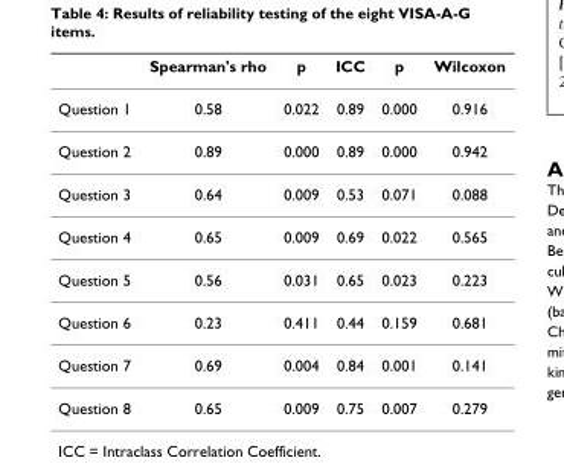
<table><thead><tr><td></td><td>Spearman&#x27;s rho</td><td>p</td><td>ICC</td><td>p</td><td>Wilcoxon</td></tr></thead><tbody><tr><td>Question 1</td><td>0.58</td><td>0.022</td><td>0.89</td><td>0.000</td><td>0.916</td></tr><tr><td>Question 2</td><td>0.89</td><td>0.000</td><td>0.89</td><td>0.000</td><td>0.942</td></tr><tr><td>Question 3</td><td>0.64</td><td>0.009</td><td>0.53</td><td>0.071</td><td>0.088</td></tr><tr><td>Question 4</td><td>0.65</td><td>0.009</td><td>0.69</td><td>0.022</td><td>0.565</td></tr><tr><td>Question 5</td><td>0.56</td><td>0.031</td><td>0.65</td><td>0.023</td><td>0.223</td></tr><tr><td>Question 6</td><td>0.23</td><td>0.411</td><td>0.44</td><td>0.159</td><td>0.681</td></tr><tr><td>Question 7</td><td>0.69</td><td>0.004</td><td>0.84</td><td>0.001</td><td>0.141</td></tr><tr><td>Question 8</td><td>0.65</td><td>0.009</td><td>0.75</td><td>0.007</td><td>0.279</td></tr></tbody></table>